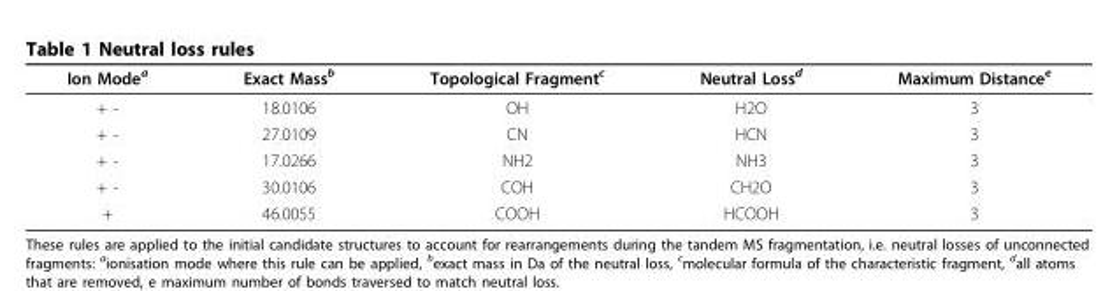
<table><thead><tr><td>Ion Mode<sup>a</sup></td><td>Exact Mass<sup>b</sup></td><td>Topological Fragment<sup>c</sup></td><td>Neutral Loss<sup>d</sup></td><td>Maximum Distance<sup>e</sup></td></tr></thead><tbody><tr><td>+ -</td><td>18.0106</td><td>OH</td><td>H2O</td><td>3</td></tr><tr><td>+ -</td><td>27.0109</td><td>CN</td><td>HCN</td><td>3</td></tr><tr><td>+ -</td><td>17.0266</td><td>NH2</td><td>NH3</td><td>3</td></tr><tr><td>+ -</td><td>30.0106</td><td>COH</td><td>CH2O</td><td>3</td></tr><tr><td>+</td><td>46.0055</td><td>COOH</td><td>HCOOH</td><td>3</td></tr></tbody></table>